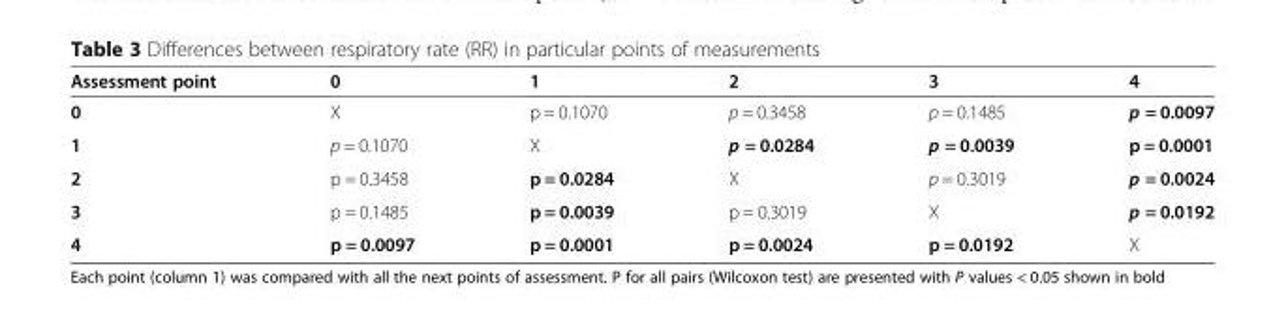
<table><thead><tr><td>Assessment point</td><td>0</td><td>1</td><td>2</td><td>3</td><td>4</td></tr></thead><tbody><tr><td>0</td><td>X</td><td>p = 0.1070</td><td>p = 0.3458</td><td>p = 0.1485</td><td>p = 0.0097</td></tr><tr><td>1</td><td>p = 0.1070</td><td>X</td><td>p = 0.0284</td><td>p = 0.0039</td><td>p = 0.0001</td></tr><tr><td>2</td><td>p = 0.3458</td><td>p = 0.0284</td><td>X</td><td>p = 0.3019</td><td>p = 0.0024</td></tr><tr><td>3</td><td>p = 0.1485</td><td>p = 0.0039</td><td>p = 0.3019</td><td>X</td><td>p = 0.0192</td></tr><tr><td>4</td><td>p = 0.0097</td><td>p = 0.0001</td><td>p = 0.0024</td><td>p = 0.0192</td><td>X</td></tr></tbody></table>